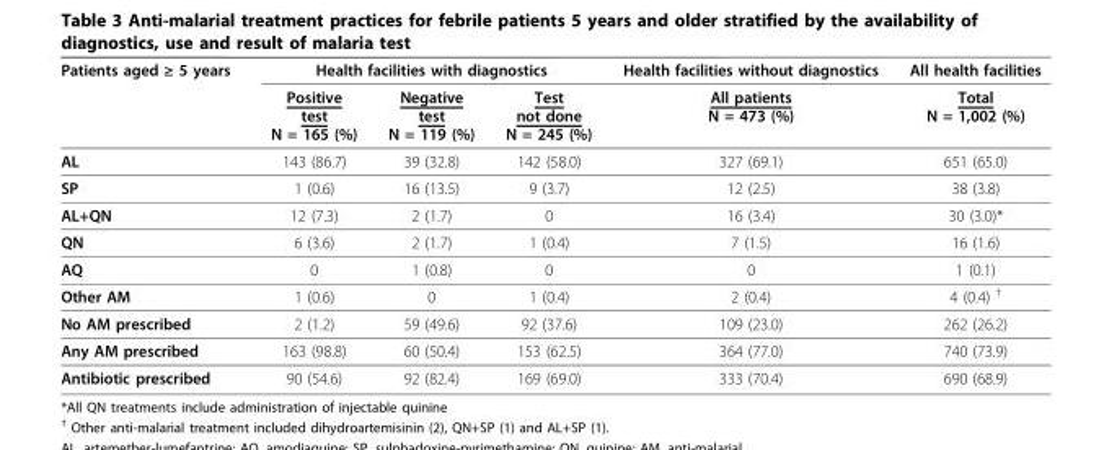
<table><thead><tr><td rowspan="2">Patients aged ≥ 5 years</td><td colspan="3">Health facilities with diagnostics</td><td rowspan="2">Health facilities without diagnostics All patients N = 473 (%)</td><td rowspan="2">All health facilities Total N = 1,002 (%)</td></tr><tr><td>Positive test N = 165 (%)</td><td>Negative test N = 119 (%)</td><td>Test not done N = 245 (%)</td></tr></thead><tbody><tr><td>AL</td><td>143 (86.7)</td><td>39 (32.8)</td><td>142 (58.0)</td><td>327 (69.1)</td><td>651 (65.0)</td></tr><tr><td>SP</td><td>1 (0.6)</td><td>16 (13.5)</td><td>9 (3.7)</td><td>12 (2.5)</td><td>38 (3.8)</td></tr><tr><td>AL+QN</td><td>12 (7.3)</td><td>2 (1.7)</td><td>0</td><td>16 (3.4)</td><td>30 (3.0)*</td></tr><tr><td>QN</td><td>6 (3.6)</td><td>2 (1.7)</td><td>1 (0.4)</td><td>7 (1.5)</td><td>16 (1.6)</td></tr><tr><td>AQ</td><td>0</td><td>1 (0.8)</td><td>0</td><td>0</td><td>1 (0.1)</td></tr><tr><td>Other AM</td><td>1 (0.6)</td><td>0</td><td>1 (0.4)</td><td>2 (0.4)</td><td>4 (0.4) <sup>†</sup></td></tr><tr><td>No AM prescribed</td><td>2 (1.2)</td><td>59 (49.6)</td><td>92 (37.6)</td><td>109 (23.0)</td><td>262 (26.2)</td></tr><tr><td>Any AM prescribed</td><td>163 (98.8)</td><td>60 (50.4)</td><td>153 (62.5)</td><td>364 (77.0)</td><td>740 (73.9)</td></tr><tr><td>Antibiotic prescribed</td><td>90 (54.6)</td><td>92 (82.4)</td><td>169 (69.0)</td><td>333 (70.4)</td><td>690 (68.9)</td></tr></tbody></table>